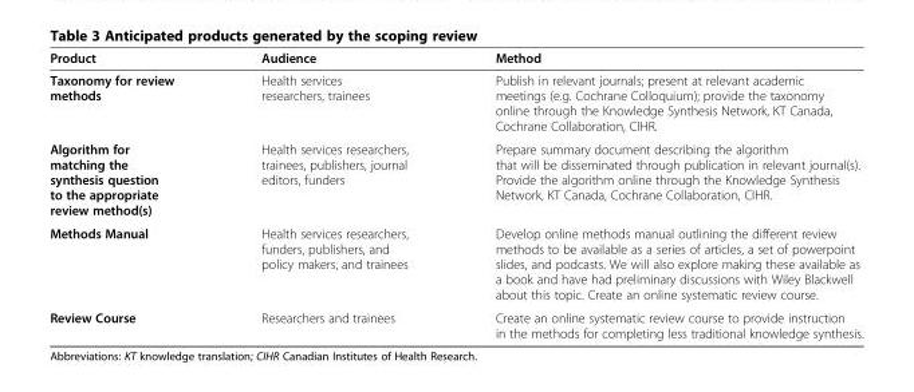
<table><thead><tr><td>Product</td><td>Audience</td><td>Method</td></tr></thead><tbody><tr><td>Taxonomy for review methods</td><td>Health services researchers, trainees</td><td>Publish in relevant journals; present at relevant academic meetings (e.g. Cochrane Colloquium); provide the taxonomy online through the Knowledge Synthesis Network, KT Canada, Cochrane Collaboration, CIHR.</td></tr><tr><td>Algorithm for matching the synthesis question to the appropriate review method(s)</td><td>Health services researchers, trainees, publishers, journal editors, funders</td><td>Prepare summary document describing the algorithm that will be disseminated through publication in relevant journal(s). Provide the algorithm online through the Knowledge Synthesis Network, KT Canada, Cochrane Collaboration, CIHR.</td></tr><tr><td>Methods Manual</td><td>Health services researchers, funders, publishers, and policy makers, and trainees</td><td>Develop online methods manual outlining the different review methods to be available as a series of articles, a set of powerpoint slides, and podcasts. We will also explore making these available as a book and have had preliminary discussions with Wiley Blackwell about this topic. Create an online systematic review course.</td></tr><tr><td>Review Course</td><td>Researchers and trainees</td><td>Create an online systematic review course to provide instruction in the methods for completing less traditional knowledge synthesis.</td></tr></tbody></table>